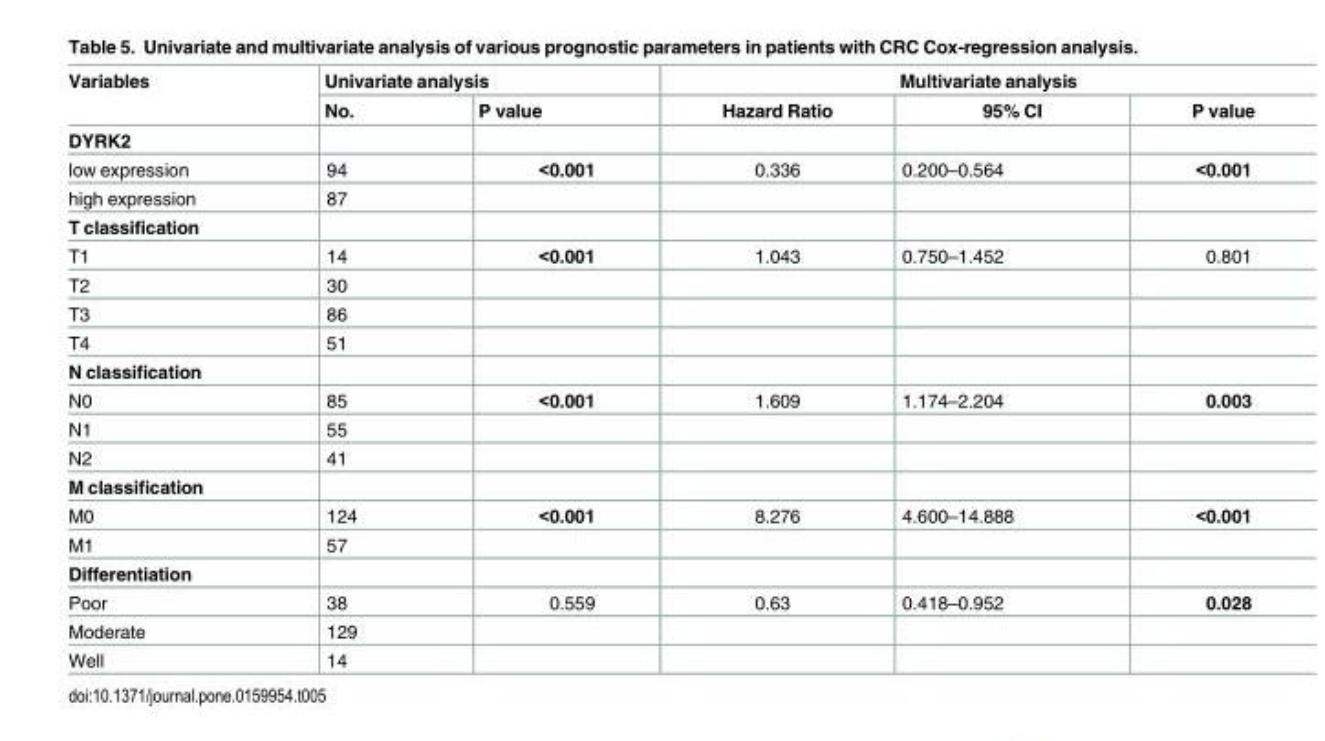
<table><thead><tr><td rowspan="2">Variables</td><td colspan="2">Univariate analysis</td><td colspan="3">Multivariate analysis</td></tr><tr><td>No.</td><td>P value</td><td>Hazard Ratio</td><td>95% CI</td><td>P value</td></tr></thead><tbody><tr><td colspan="6">DYRK2</td></tr><tr><td>low expression</td><td>94</td><td>&lt;0.001</td><td>0.336</td><td>0.200–0.564</td><td>&lt;0.001</td></tr><tr><td>high expression</td><td>87</td><td></td><td></td><td></td><td></td></tr><tr><td colspan="6">T classification</td></tr><tr><td>T1</td><td>14</td><td>&lt;0.001</td><td>1.043</td><td>0.750–1.452</td><td>0.801</td></tr><tr><td>T2</td><td>30</td><td></td><td></td><td></td><td></td></tr><tr><td>T3</td><td>86</td><td></td><td></td><td></td><td></td></tr><tr><td>T4</td><td>51</td><td></td><td></td><td></td><td></td></tr><tr><td colspan="6">N classification</td></tr><tr><td>N0</td><td>85</td><td>&lt;0.001</td><td>1.609</td><td>1.174–2.204</td><td>0.003</td></tr><tr><td>N1</td><td>55</td><td></td><td></td><td></td><td></td></tr><tr><td>N2</td><td>41</td><td></td><td></td><td></td><td></td></tr><tr><td colspan="6">M classification</td></tr><tr><td>M0</td><td>124</td><td>&lt;0.001</td><td>8.276</td><td>4.600–14.888</td><td>&lt;0.001</td></tr><tr><td>M1</td><td>57</td><td></td><td></td><td></td><td></td></tr><tr><td colspan="6">Differentiation</td></tr><tr><td>Poor</td><td>38</td><td>0.559</td><td>0.63</td><td>0.418–0.952</td><td>0.028</td></tr><tr><td>Moderate</td><td>129</td><td></td><td></td><td></td><td></td></tr><tr><td>Well</td><td>14</td><td></td><td></td><td></td><td></td></tr></tbody></table>